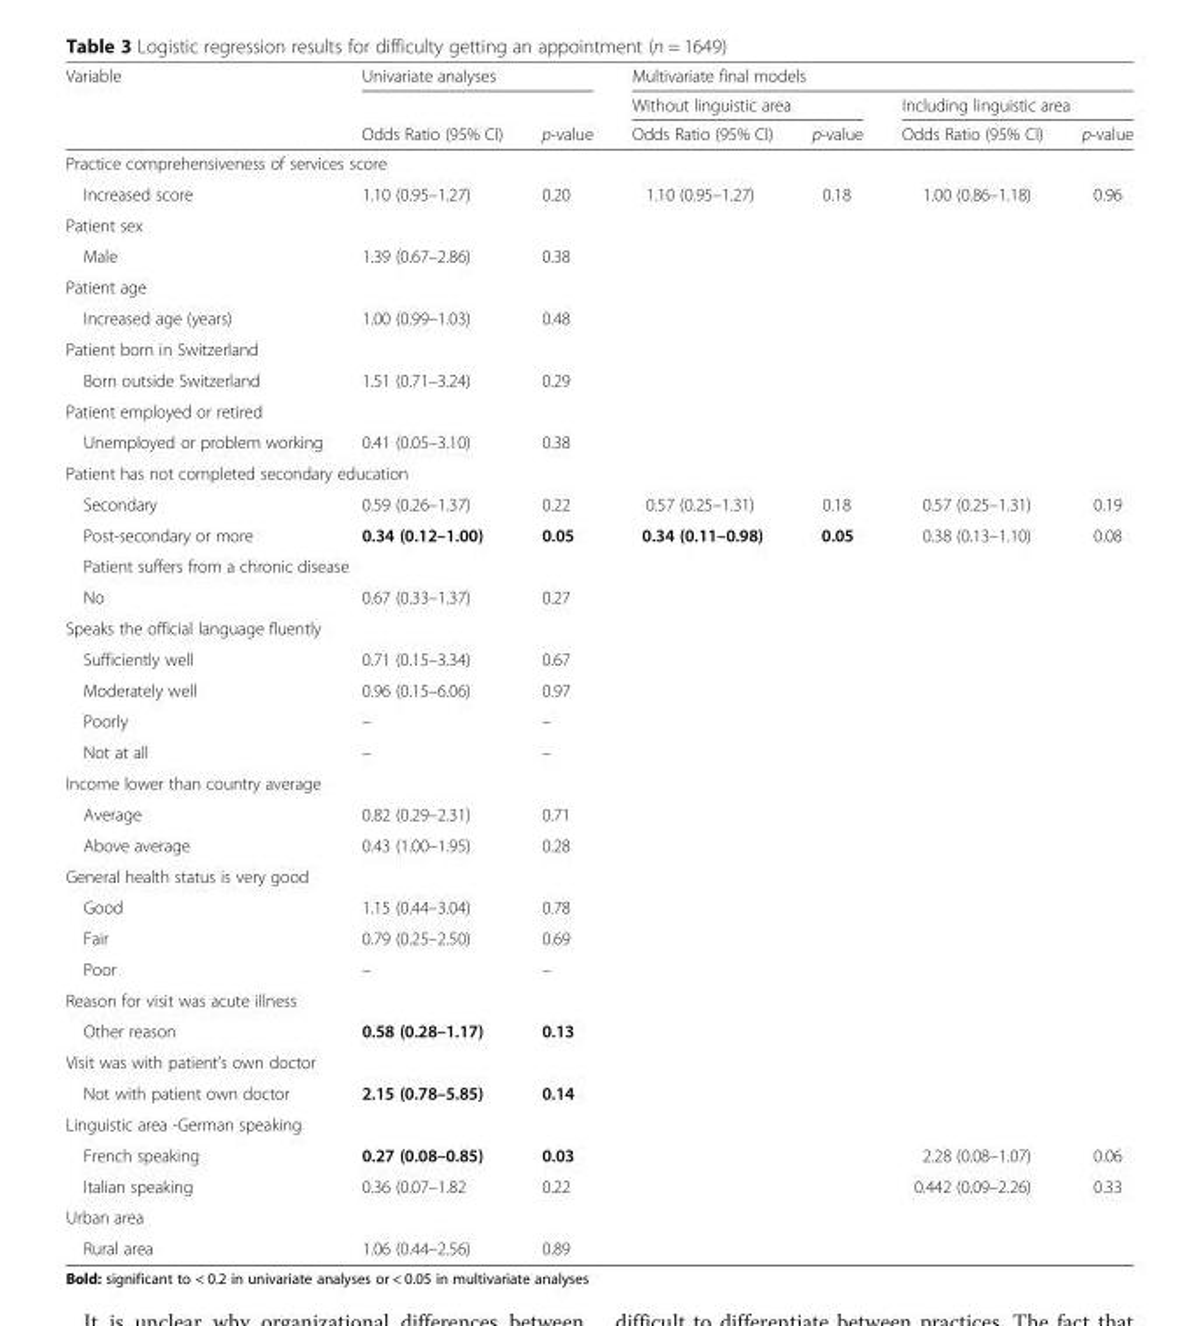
<table><thead><tr><td rowspan="3">Variable</td><td colspan="2">Univariate analyses</td><td colspan="4">Multivariate final models</td></tr><tr><td rowspan="2">Odds Ratio (95% CI)</td><td rowspan="2">p-value</td><td colspan="2">Without linguistic area</td><td colspan="2">Including linguistic area</td></tr><tr><td>Odds Ratio (95% CI)</td><td>p-value</td><td>Odds Ratio (95% CI)</td><td>p-value</td></tr></thead><tbody><tr><td colspan="7">Practice comprehensiveness of services score</td></tr><tr><td>Increased score</td><td>1.10 (0.95–1.27)</td><td>0.20</td><td>1.10 (0.95–1.27)</td><td>0.18</td><td>1.00 (0.86–1.18)</td><td>0.96</td></tr><tr><td colspan="7">Patient sex</td></tr><tr><td>Male</td><td>1.39 (0.67–2.86)</td><td>0.38</td><td></td><td></td><td></td><td></td></tr><tr><td colspan="7">Patient age</td></tr><tr><td>Increased age (years)</td><td>1.00 (0.99–1.03)</td><td>0.48</td><td></td><td></td><td></td><td></td></tr><tr><td colspan="7">Patient born in Switzerland</td></tr><tr><td>Born outside Switzerland</td><td>1.51 (0.71–3.24)</td><td>0.29</td><td></td><td></td><td></td><td></td></tr><tr><td colspan="7">Patient employed or retired</td></tr><tr><td>Unemployed or problem working</td><td>0.41 (0.05–3.10)</td><td>0.38</td><td></td><td></td><td></td><td></td></tr><tr><td colspan="7">Patient has not completed secondary education</td></tr><tr><td>Secondary</td><td>0.59 (0.26–1.37)</td><td>0.22</td><td>0.57 (0.25–1.31)</td><td>0.18</td><td>0.57 (0.25–1.31)</td><td>0.19</td></tr><tr><td>Post-secondary or more</td><td>0.34 (0.12–1.00)</td><td>0.05</td><td>0.34 (0.11–0.98)</td><td>0.05</td><td>0.38 (0.13–1.10)</td><td>0.08</td></tr><tr><td colspan="7">Patient suffers from a chronic disease</td></tr><tr><td>No</td><td>0.67 (0.33–1.37)</td><td>0.27</td><td></td><td></td><td></td><td></td></tr><tr><td colspan="7">Speaks the official language fluently</td></tr><tr><td>Sufficiently well</td><td>0.71 (0.15–3.34)</td><td>0.67</td><td></td><td></td><td></td><td></td></tr><tr><td>Moderately well</td><td>0.96 (0.15–6.06)</td><td>0.97</td><td></td><td></td><td></td><td></td></tr><tr><td>Poorly</td><td>–</td><td>–</td><td></td><td></td><td></td><td></td></tr><tr><td>Not at all</td><td>–</td><td>–</td><td></td><td></td><td></td><td></td></tr><tr><td colspan="7">Income lower than country average</td></tr><tr><td>Average</td><td>0.82 (0.29–2.31)</td><td>0.71</td><td></td><td></td><td></td><td></td></tr><tr><td>Above average</td><td>0.43 (1.00–1.95)</td><td>0.28</td><td></td><td></td><td></td><td></td></tr><tr><td colspan="7">General health status is very good</td></tr><tr><td>Good</td><td>1.15 (0.44–3.04)</td><td>0.78</td><td></td><td></td><td></td><td></td></tr><tr><td>Fair</td><td>0.79 (0.25–2.50)</td><td>0.69</td><td></td><td></td><td></td><td></td></tr><tr><td>Poor</td><td>–</td><td>–</td><td></td><td></td><td></td><td></td></tr><tr><td colspan="7">Reason for visit was acute illness</td></tr><tr><td>Other reason</td><td>0.58 (0.28–1.17)</td><td>0.13</td><td></td><td></td><td></td><td></td></tr><tr><td colspan="7">Visit was with patient’s own doctor</td></tr><tr><td>Not with patient own doctor</td><td>2.15 (0.78–5.85)</td><td>0.14</td><td></td><td></td><td></td><td></td></tr><tr><td colspan="7">Linguistic area -German speaking</td></tr><tr><td>French speaking</td><td>0.27 (0.08–0.85)</td><td>0.03</td><td></td><td></td><td>2.28 (0.08–1.07)</td><td>0.06</td></tr><tr><td>Italian speaking</td><td>0.36 (0.07–1.82</td><td>0.22</td><td></td><td></td><td>0.442 (0.09–2.26)</td><td>0.33</td></tr><tr><td colspan="7">Urban area</td></tr><tr><td>Rural area</td><td>1.06 (0.44–2.56)</td><td>0.89</td><td></td><td></td><td></td><td></td></tr></tbody></table>